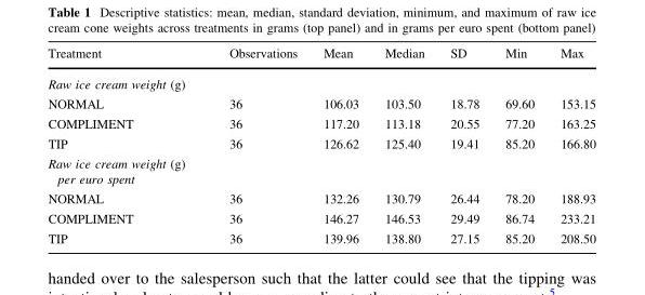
<table><thead><tr><td>Treatment</td><td>Observations</td><td>Mean</td><td>Median</td><td>SD</td><td>Min</td><td>Max</td></tr></thead><tbody><tr><td colspan="7">Raw ice cream weight (g)</td></tr><tr><td>NORMAL</td><td>36</td><td>106.03</td><td>103.50</td><td>18.78</td><td>69.60</td><td>153.15</td></tr><tr><td>COMPLIMENT</td><td>36</td><td>117.20</td><td>113.18</td><td>20.55</td><td>77.20</td><td>163.25</td></tr><tr><td>TIP</td><td>36</td><td>126.62</td><td>125.40</td><td>19.41</td><td>85.20</td><td>166.80</td></tr><tr><td colspan="7">Raw ice cream weight (g) per euro spent</td></tr><tr><td>NORMAL</td><td>36</td><td>132.26</td><td>130.79</td><td>26.44</td><td>78.20</td><td>188.93</td></tr><tr><td>COMPLIMENT</td><td>36</td><td>146.27</td><td>146.53</td><td>29.49</td><td>86.74</td><td>233.21</td></tr><tr><td>TIP</td><td>36</td><td>139.96</td><td>138.80</td><td>27.15</td><td>85.20</td><td>208.50</td></tr></tbody></table>